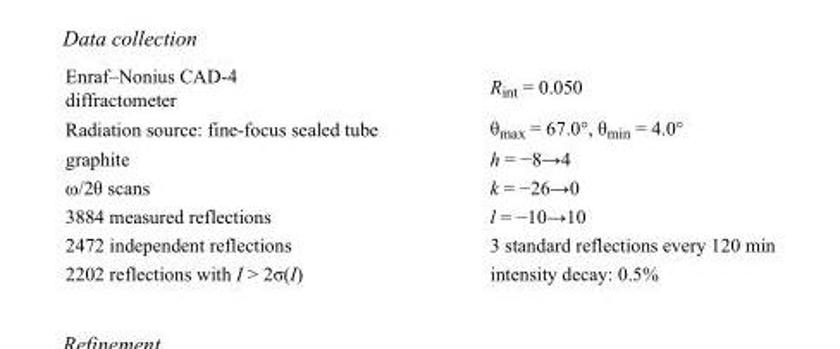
<table><tbody><tr><td>Enraf–Nonius CAD-4 diffractometer</td><td>R<sub>int</sub> = 0.050</td></tr><tr><td>Radiation source: fine-focus sealed tube</td><td>θ<sub>max</sub> = 67.0°, θ<sub>min</sub> = 4.0°</td></tr><tr><td>graphite</td><td>h = −8→4</td></tr><tr><td>ω/2θ scans</td><td>k = −26→0</td></tr><tr><td>3884 measured reflections</td><td>l = −10→10</td></tr><tr><td>2472 independent reflections</td><td>3 standard reflections every 120 min</td></tr><tr><td>2202 reflections with I &gt; 2σ(I)</td><td>intensity decay: 0.5%</td></tr></tbody></table>